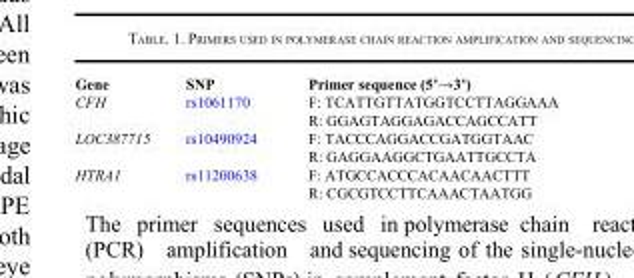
<table><thead><tr><td>Gene</td><td>SNP</td><td>Primer sequence (5’→3’)</td></tr></thead><tbody><tr><td rowspan="2">CFH</td><td>rs1061170</td><td>F: TCATTGTTATGGTCCTTAGGAAA</td></tr><tr><td></td><td>R: GGAGTAGGAGACCAGCCATT</td></tr><tr><td rowspan="2">LOC387715</td><td>rs10490924</td><td>F: TACCCAGGACCGATGGTAAC</td></tr><tr><td></td><td>R: GAGGAAGGCTGAATTGCCTA</td></tr><tr><td rowspan="2">HTRA1</td><td>rs11200638</td><td>F: ATGCCACCCACAACAACTTT</td></tr><tr><td></td><td>R: CGCGTCCTTCAAACTAATGG</td></tr></tbody></table>